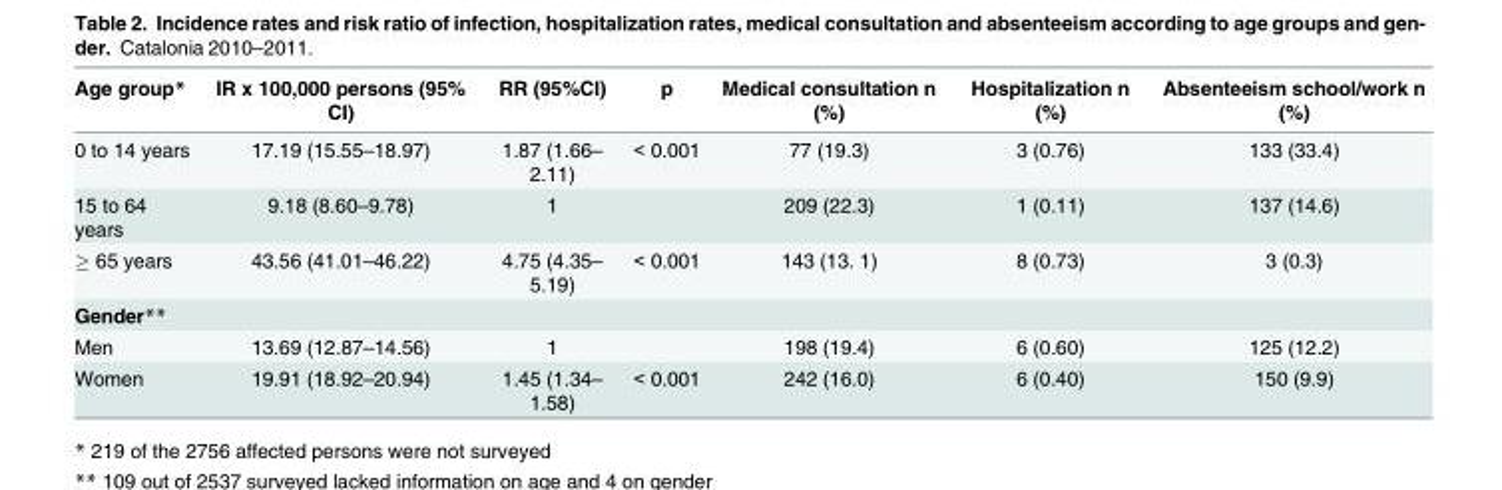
<table><thead><tr><td>Age group*</td><td>IR x 100,000 persons (95% CI)</td><td>RR (95%CI)</td><td>p</td><td>Medical consultation n (%)</td><td>Hospitalization n (%)</td><td>Absenteeism school/work n (%)</td></tr></thead><tbody><tr><td>0 to 14 years</td><td>17.19 (15.55–18.97)</td><td>1.87 (1.66– 2.11)</td><td>&lt; 0.001</td><td>77 (19.3)</td><td>3 (0.76)</td><td>133 (33.4)</td></tr><tr><td>15 to 64 years</td><td>9.18 (8.60–9.78)</td><td>1</td><td></td><td>209 (22.3)</td><td>1 (0.11)</td><td>137 (14.6)</td></tr><tr><td>≥ 65 years</td><td>43.56 (41.01–46.22)</td><td>4.75 (4.35– 5.19)</td><td>&lt; 0.001</td><td>143 (13. 1)</td><td>8 (0.73)</td><td>3 (0.3)</td></tr><tr><td colspan="7">Gender**</td></tr><tr><td>Men</td><td>13.69 (12.87–14.56)</td><td>1</td><td></td><td>198 (19.4)</td><td>6 (0.60)</td><td>125 (12.2)</td></tr><tr><td>Women</td><td>19.91 (18.92–20.94)</td><td>1.45 (1.34– 1.58)</td><td>&lt; 0.001</td><td>242 (16.0)</td><td>6 (0.40)</td><td>150 (9.9)</td></tr></tbody></table>